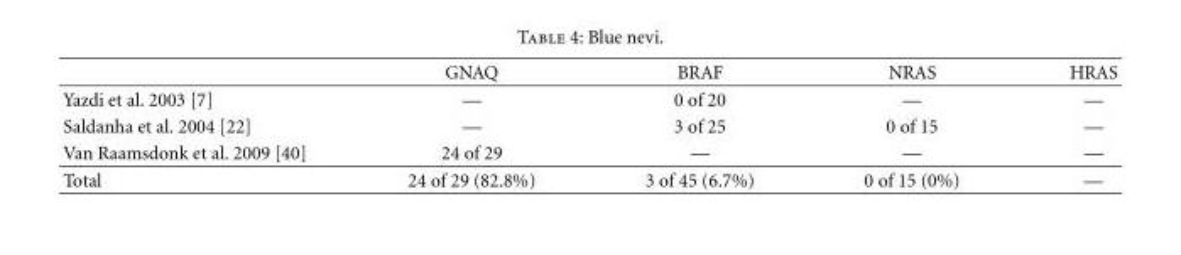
<table><thead><tr><td></td><td>GNAQ</td><td>BRAF</td><td>NRAS</td><td>HRAS</td></tr></thead><tbody><tr><td>Yazdi et al. 2003 [7]</td><td>—</td><td>0 of 20</td><td>—</td><td>—</td></tr><tr><td>Saldanha et al. 2004 [22]</td><td>—</td><td>3 of 25</td><td>0 of 15</td><td>—</td></tr><tr><td>Van Raamsdonk et al. 2009 [40]</td><td>24 of 29</td><td>—</td><td>—</td><td>—</td></tr><tr><td>Total</td><td>24 of 29 (82.8%)</td><td>3 of 45 (6.7%)</td><td>0 of 15 (0%)</td><td>—</td></tr></tbody></table>